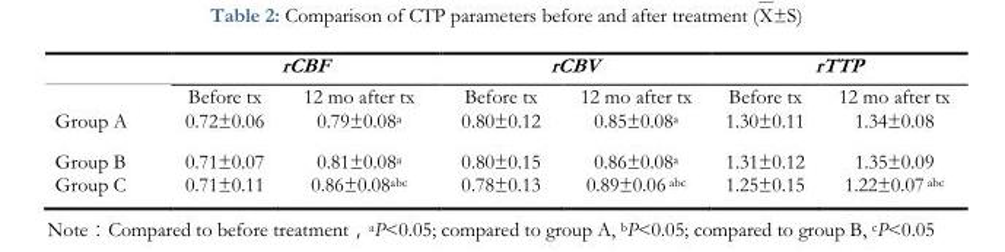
<table><thead><tr><td rowspan="2"></td><td colspan="2">rCBF</td><td colspan="2">rCBV</td><td colspan="2">rTTP</td></tr><tr><td>Before tx</td><td>12 mo after tx</td><td>Before tx</td><td>12 mo after tx</td><td>Before tx</td><td>12 mo after tx</td></tr></thead><tbody><tr><td>Group A</td><td>0.72±0.06</td><td>0.79±0.08<sup>a</sup></td><td>0.80±0.12</td><td>0.85±0.08<sup>a</sup></td><td>1.30±0.11</td><td>1.34±0.08</td></tr><tr><td>Group B</td><td>0.71±0.07</td><td>0.81±0.08<sup>a</sup></td><td>0.80±0.15</td><td>0.86±0.08<sup>a</sup></td><td>1.31±0.12</td><td>1.35±0.09</td></tr><tr><td>Group C</td><td>0.71±0.11</td><td>0.86±0.08abc</td><td>0.78±0.13</td><td>0.89±0.06 abc</td><td>1.25±0.15</td><td>1.22±0.07 abc</td></tr></tbody></table>